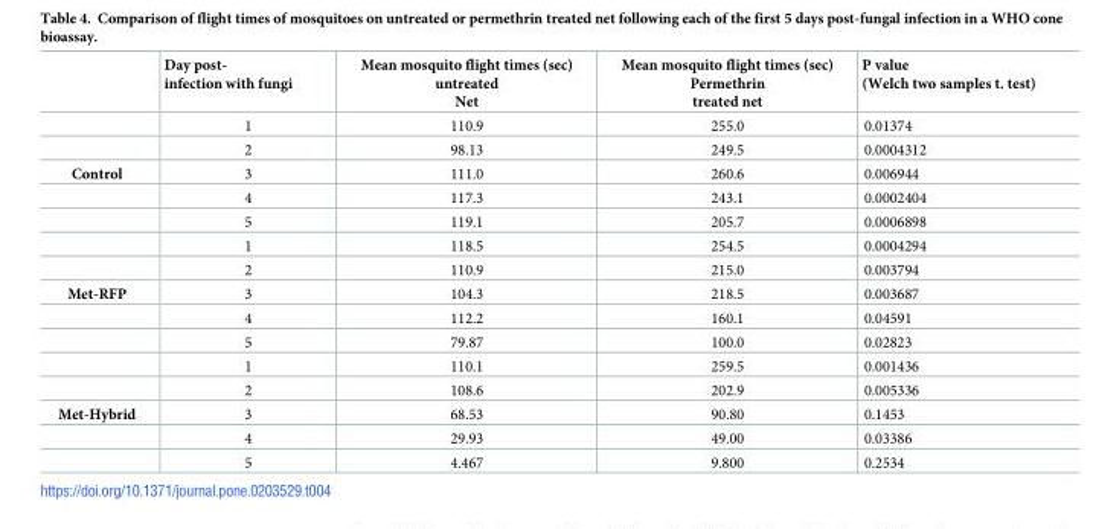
<table><thead><tr><td></td><td>Day post- infection with fungi</td><td>Mean mosquito flight times (sec) untreated Net</td><td>Mean mosquito flight times (sec) Permethrin treated net</td><td>P value (Welch two samples t. test)</td></tr></thead><tbody><tr><td></td><td>1</td><td>110.9</td><td>255.0</td><td>0.01374</td></tr><tr><td></td><td>2</td><td>98.13</td><td>249.5</td><td>0.0004312</td></tr><tr><td rowspan="5">Control</td><td>3</td><td>111.0</td><td>260.6</td><td>0.006944</td></tr><tr><td>4</td><td>117.3</td><td>243.1</td><td>0.0002404</td></tr><tr><td>5</td><td>119.1</td><td>205.7</td><td>0.0006898</td></tr><tr><td>1</td><td>118.5</td><td>254.5</td><td>0.0004294</td></tr><tr><td>2</td><td>110.9</td><td>215.0</td><td>0.003794</td></tr><tr><td rowspan="5">Met-RFP</td><td>3</td><td>104.3</td><td>218.5</td><td>0.003687</td></tr><tr><td>4</td><td>112.2</td><td>160.1</td><td>0.04591</td></tr><tr><td>5</td><td>79.87</td><td>100.0</td><td>0.02823</td></tr><tr><td>1</td><td>110.1</td><td>259.5</td><td>0.001436</td></tr><tr><td>2</td><td>108.6</td><td>202.9</td><td>0.005336</td></tr><tr><td rowspan="3">Met-Hybrid</td><td>3</td><td>68.53</td><td>90.80</td><td>0.1453</td></tr><tr><td>4</td><td>29.93</td><td>49.00</td><td>0.03386</td></tr><tr><td>5</td><td>4.467</td><td>9.800</td><td>0.2534</td></tr></tbody></table>